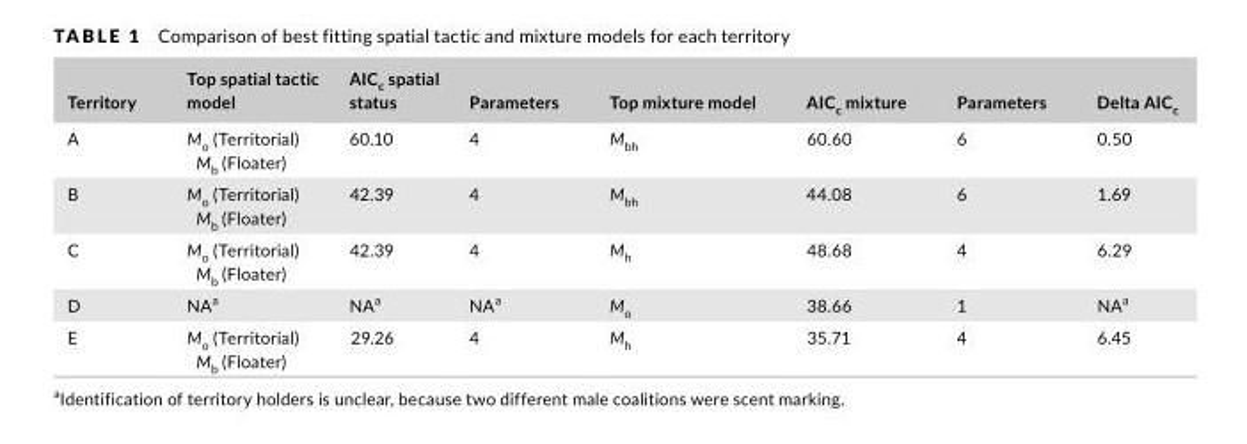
<table><thead><tr><td>Territory</td><td>Top spatial tactic model</td><td>AIC<sub>c</sub> spatial status</td><td>Parameters</td><td>Top mixture model</td><td>AIC<sub>c</sub> mixture</td><td>Parameters</td><td>Delta AIC<sub>c</sub></td></tr></thead><tbody><tr><td>A</td><td>M<sub>o</sub> (Territorial) M<sub>b</sub> (Floater)</td><td>60.10</td><td>4</td><td>M<sub>bh</sub></td><td>60.60</td><td>6</td><td>0.50</td></tr><tr><td>B</td><td>M<sub>o</sub> (Territorial) M<sub>b</sub> (Floater)</td><td>42.39</td><td>4</td><td>M<sub>bh</sub></td><td>44.08</td><td>6</td><td>1.69</td></tr><tr><td>C</td><td>M<sub>o</sub> (Territorial) M<sub>b</sub> (Floater)</td><td>42.39</td><td>4</td><td>M<sub>h</sub></td><td>48.68</td><td>4</td><td>6.29</td></tr><tr><td>D</td><td>NA<sup>a</sup></td><td>NA<sup>a</sup></td><td>NA<sup>a</sup></td><td>M<sub>o</sub></td><td>38.66</td><td>1</td><td>NA<sup>a</sup></td></tr><tr><td>E</td><td>M<sub>o</sub> (Territorial) M<sub>b</sub> (Floater)</td><td>29.26</td><td>4</td><td>M<sub>h</sub></td><td>35.71</td><td>4</td><td>6.45</td></tr></tbody></table>